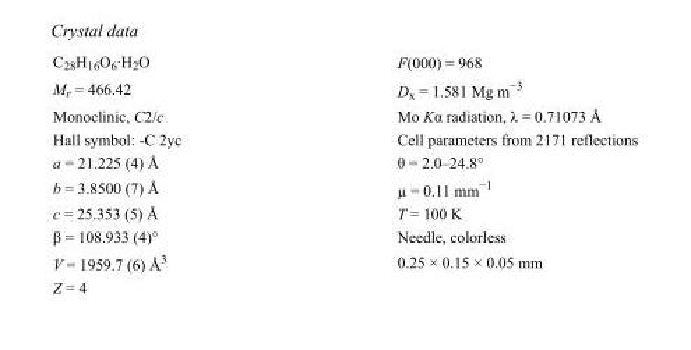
<table><tbody><tr><td>C<sub>28</sub>H<sub>16</sub>O<sub>6</sub>·H<sub>2</sub>O</td><td>F(000) = 968</td></tr><tr><td>M<sub>r</sub> = 466.42</td><td>D<sub>x</sub> = 1.581 Mg m<sup>−3</sup></td></tr><tr><td>Monoclinic, C2/c</td><td>Mo Kα radiation, λ = 0.71073 Å</td></tr><tr><td>Hall symbol: -C 2yc</td><td>Cell parameters from 2171 reflections</td></tr><tr><td>a = 21.225 (4) Å</td><td>θ = 2.0–24.8°</td></tr><tr><td>b = 3.8500 (7) Å</td><td>µ = 0.11 mm<sup>−1</sup></td></tr><tr><td>c = 25.353 (5) Å</td><td>T = 100 K</td></tr><tr><td>β = 108.933 (4)°</td><td>Needle, colorless</td></tr><tr><td>V = 1959.7 (6) Å<sup>3</sup></td><td>0.25 × 0.15 × 0.05 mm</td></tr><tr><td>Z = 4</td><td></td></tr></tbody></table>